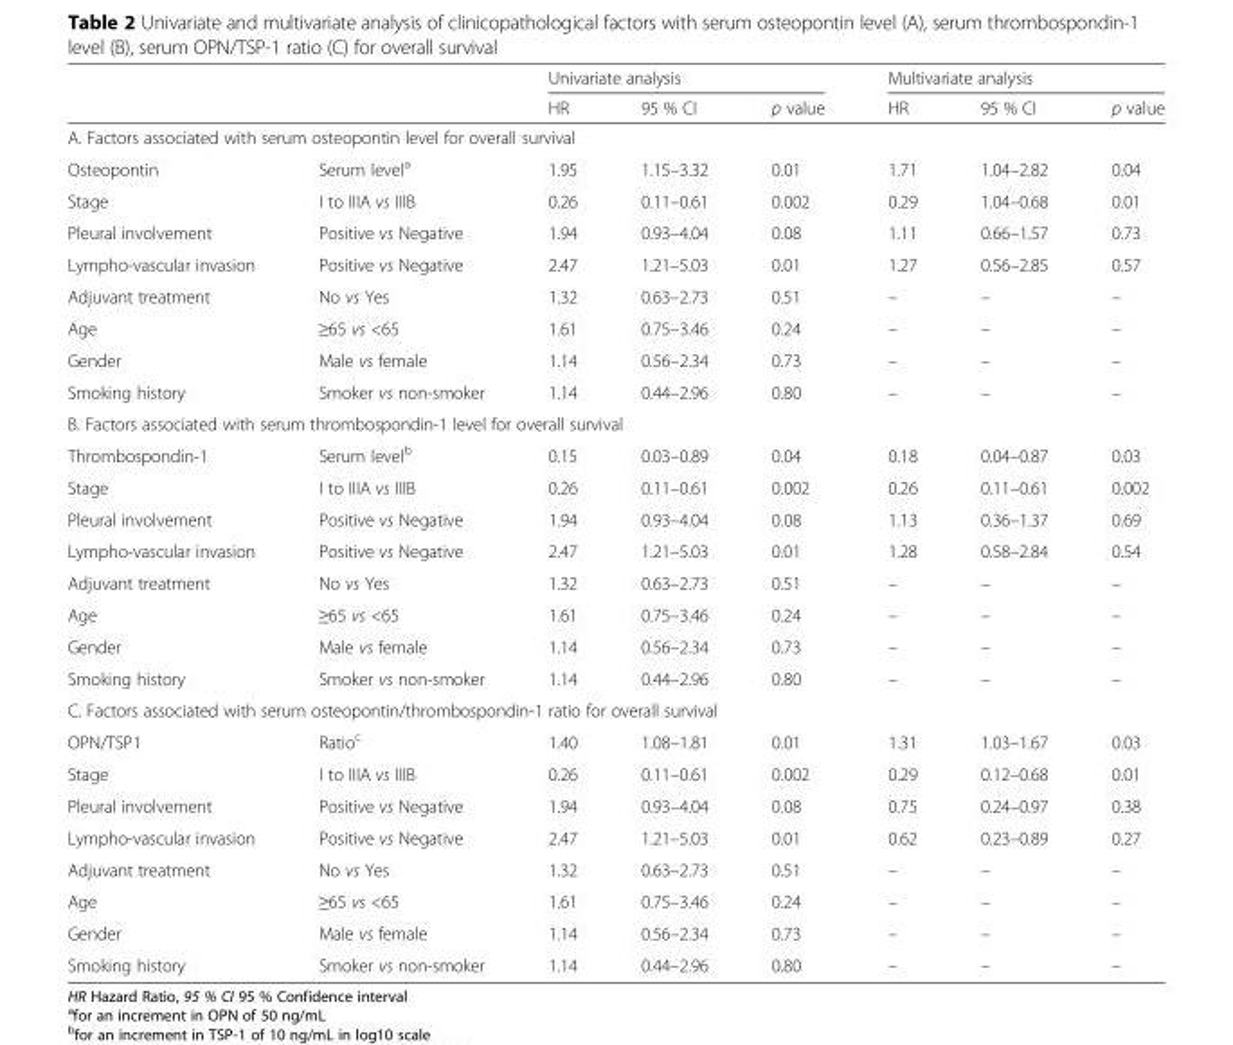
<table><thead><tr><td rowspan="2"></td><td rowspan="2"></td><td colspan="3">Univariate analysis</td><td colspan="3">Multivariate analysis</td></tr><tr><td>HR</td><td>95 % CI</td><td>p value</td><td>HR</td><td>95 % CI</td><td>p value</td></tr></thead><tbody><tr><td colspan="8">A. Factors associated with serum osteopontin level for overall survival</td></tr><tr><td>Osteopontin</td><td>Serum level<sup>a</sup></td><td>1.95</td><td>1.15–3.32</td><td>0.01</td><td>1.71</td><td>1.04–2.82</td><td>0.04</td></tr><tr><td>Stage</td><td>I to IIIA vs IIIB</td><td>0.26</td><td>0.11–0.61</td><td>0.002</td><td>0.29</td><td>1.04–0.68</td><td>0.01</td></tr><tr><td>Pleural involvement</td><td>Positive vs Negative</td><td>1.94</td><td>0.93–4.04</td><td>0.08</td><td>1.11</td><td>0.66–1.57</td><td>0.73</td></tr><tr><td>Lympho-vascular invasion</td><td>Positive vs Negative</td><td>2.47</td><td>1.21–5.03</td><td>0.01</td><td>1.27</td><td>0.56–2.85</td><td>0.57</td></tr><tr><td>Adjuvant treatment</td><td>No vs Yes</td><td>1.32</td><td>0.63–2.73</td><td>0.51</td><td>–</td><td>–</td><td>–</td></tr><tr><td>Age</td><td>≥65 vs &lt;65</td><td>1.61</td><td>0.75–3.46</td><td>0.24</td><td>–</td><td>–</td><td>–</td></tr><tr><td>Gender</td><td>Male vs female</td><td>1.14</td><td>0.56–2.34</td><td>0.73</td><td>–</td><td>–</td><td>–</td></tr><tr><td>Smoking history</td><td>Smoker vs non-smoker</td><td>1.14</td><td>0.44–2.96</td><td>0.80</td><td>–</td><td>–</td><td>–</td></tr><tr><td colspan="8">B. Factors associated with serum thrombospondin-1 level for overall survival</td></tr><tr><td>Thrombospondin-1</td><td>Serum level<sup>b</sup></td><td>0.15</td><td>0.03–0.89</td><td>0.04</td><td>0.18</td><td>0.04–0.87</td><td>0.03</td></tr><tr><td>Stage</td><td>I to IIIA vs IIIB</td><td>0.26</td><td>0.11–0.61</td><td>0.002</td><td>0.26</td><td>0.11–0.61</td><td>0.002</td></tr><tr><td>Pleural involvement</td><td>Positive vs Negative</td><td>1.94</td><td>0.93–4.04</td><td>0.08</td><td>1.13</td><td>0.36–1.37</td><td>0.69</td></tr><tr><td>Lympho-vascular invasion</td><td>Positive vs Negative</td><td>2.47</td><td>1.21–5.03</td><td>0.01</td><td>1.28</td><td>0.58–2.84</td><td>0.54</td></tr><tr><td>Adjuvant treatment</td><td>No vs Yes</td><td>1.32</td><td>0.63–2.73</td><td>0.51</td><td>–</td><td>–</td><td>–</td></tr><tr><td>Age</td><td>≥65 vs &lt;65</td><td>1.61</td><td>0.75–3.46</td><td>0.24</td><td>–</td><td>–</td><td>–</td></tr><tr><td>Gender</td><td>Male vs female</td><td>1.14</td><td>0.56–2.34</td><td>0.73</td><td>–</td><td>–</td><td>–</td></tr><tr><td>Smoking history</td><td>Smoker vs non-smoker</td><td>1.14</td><td>0.44–2.96</td><td>0.80</td><td>–</td><td>–</td><td>–</td></tr><tr><td colspan="8">C. Factors associated with serum osteopontin/thrombospondin-1 ratio for overall survival</td></tr><tr><td>OPN/TSP1</td><td>Ratio<sup>c</sup></td><td>1.40</td><td>1.08–1.81</td><td>0.01</td><td>1.31</td><td>1.03–1.67</td><td>0.03</td></tr><tr><td>Stage</td><td>I to IIIA vs IIIB</td><td>0.26</td><td>0.11–0.61</td><td>0.002</td><td>0.29</td><td>0.12–0.68</td><td>0.01</td></tr><tr><td>Pleural involvement</td><td>Positive vs Negative</td><td>1.94</td><td>0.93–4.04</td><td>0.08</td><td>0.75</td><td>0.24–0.97</td><td>0.38</td></tr><tr><td>Lympho-vascular invasion</td><td>Positive vs Negative</td><td>2.47</td><td>1.21–5.03</td><td>0.01</td><td>0.62</td><td>0.23–0.89</td><td>0.27</td></tr><tr><td>Adjuvant treatment</td><td>No vs Yes</td><td>1.32</td><td>0.63–2.73</td><td>0.51</td><td>–</td><td>–</td><td>–</td></tr><tr><td>Age</td><td>≥65 vs &lt;65</td><td>1.61</td><td>0.75–3.46</td><td>0.24</td><td>–</td><td>–</td><td>–</td></tr><tr><td>Gender</td><td>Male vs female</td><td>1.14</td><td>0.56–2.34</td><td>0.73</td><td>–</td><td>–</td><td>–</td></tr><tr><td>Smoking history</td><td>Smoker vs non-smoker</td><td>1.14</td><td>0.44–2.96</td><td>0.80</td><td>–</td><td>–</td><td>–</td></tr></tbody></table>